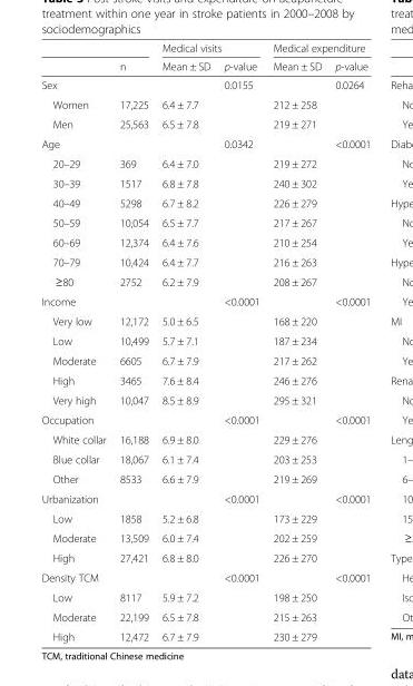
<table><thead><tr><td rowspan="2"></td><td rowspan="2">n</td><td colspan="2">Medical visits</td><td colspan="2">Medical expenditure</td></tr><tr><td>Mean ± SD</td><td>p-value</td><td>Mean ± SD</td><td>p-value</td></tr></thead><tbody><tr><td colspan="3">Sex</td><td>0.0155</td><td></td><td>0.0264</td></tr><tr><td>Women</td><td>17,225</td><td>6.4 ± 7.7</td><td></td><td>212 ± 258</td><td></td></tr><tr><td>Men</td><td>25,563</td><td>6.5 ± 7.8</td><td></td><td>219 ± 271</td><td></td></tr><tr><td colspan="3">Age</td><td>0.0342</td><td></td><td>&lt;0.0001</td></tr><tr><td>20–29</td><td>369</td><td>6.4 ± 7.0</td><td></td><td>219 ± 272</td><td></td></tr><tr><td>30–39</td><td>1517</td><td>6.8 ± 7.8</td><td></td><td>240 ± 302</td><td></td></tr><tr><td>40–49</td><td>5298</td><td>6.7 ± 8.2</td><td></td><td>226 ± 279</td><td></td></tr><tr><td>50–59</td><td>10,054</td><td>6.5 ± 7.7</td><td></td><td>217 ± 267</td><td></td></tr><tr><td>60–69</td><td>12,374</td><td>6.4 ± 7.6</td><td></td><td>210 ± 254</td><td></td></tr><tr><td>70–79</td><td>10,424</td><td>6.4 ± 7.7</td><td></td><td>216 ± 263</td><td></td></tr><tr><td>≥80</td><td>2752</td><td>6.2 ± 7.9</td><td></td><td>208 ± 267</td><td></td></tr><tr><td colspan="3">Income</td><td>&lt;0.0001</td><td></td><td>&lt;0.0001</td></tr><tr><td>Very low</td><td>12,172</td><td>5.0 ± 6.5</td><td></td><td>168 ± 220</td><td></td></tr><tr><td>Low</td><td>10,499</td><td>5.7 ± 7.1</td><td></td><td>187 ± 234</td><td></td></tr><tr><td>Moderate</td><td>6605</td><td>6.7 ± 7.9</td><td></td><td>217 ± 262</td><td></td></tr><tr><td>High</td><td>3465</td><td>7.6 ± 8.4</td><td></td><td>246 ± 276</td><td></td></tr><tr><td>Very high</td><td>10,047</td><td>8.5 ± 8.9</td><td></td><td>295 ± 321</td><td></td></tr><tr><td colspan="3">Occupation</td><td>&lt;0.0001</td><td></td><td>&lt;0.0001</td></tr><tr><td>White collar</td><td>16,188</td><td>6.9 ± 8.0</td><td></td><td>229 ± 276</td><td></td></tr><tr><td>Blue collar</td><td>18,067</td><td>6.1 ± 7.4</td><td></td><td>203 ± 253</td><td></td></tr><tr><td>Other</td><td>8533</td><td>6.6 ± 7.9</td><td></td><td>219 ± 269</td><td></td></tr><tr><td colspan="3">Urbanization</td><td>&lt;0.0001</td><td></td><td>&lt;0.0001</td></tr><tr><td>Low</td><td>1858</td><td>5.2 ± 6.8</td><td></td><td>173 ± 229</td><td></td></tr><tr><td>Moderate</td><td>13,509</td><td>6.0 ± 7.4</td><td></td><td>202 ± 259</td><td></td></tr><tr><td>High</td><td>27,421</td><td>6.8 ± 8.0</td><td></td><td>226 ± 270</td><td></td></tr><tr><td colspan="3">Density TCM</td><td>&lt;0.0001</td><td></td><td>&lt;0.0001</td></tr><tr><td>Low</td><td>8117</td><td>5.9 ± 7.2</td><td></td><td>198 ± 250</td><td></td></tr><tr><td>Moderate</td><td>22,199</td><td>6.5 ± 7.8</td><td></td><td>215 ± 263</td><td></td></tr><tr><td>High</td><td>12,472</td><td>6.7 ± 7.9</td><td></td><td>230 ± 279</td><td></td></tr></tbody></table>